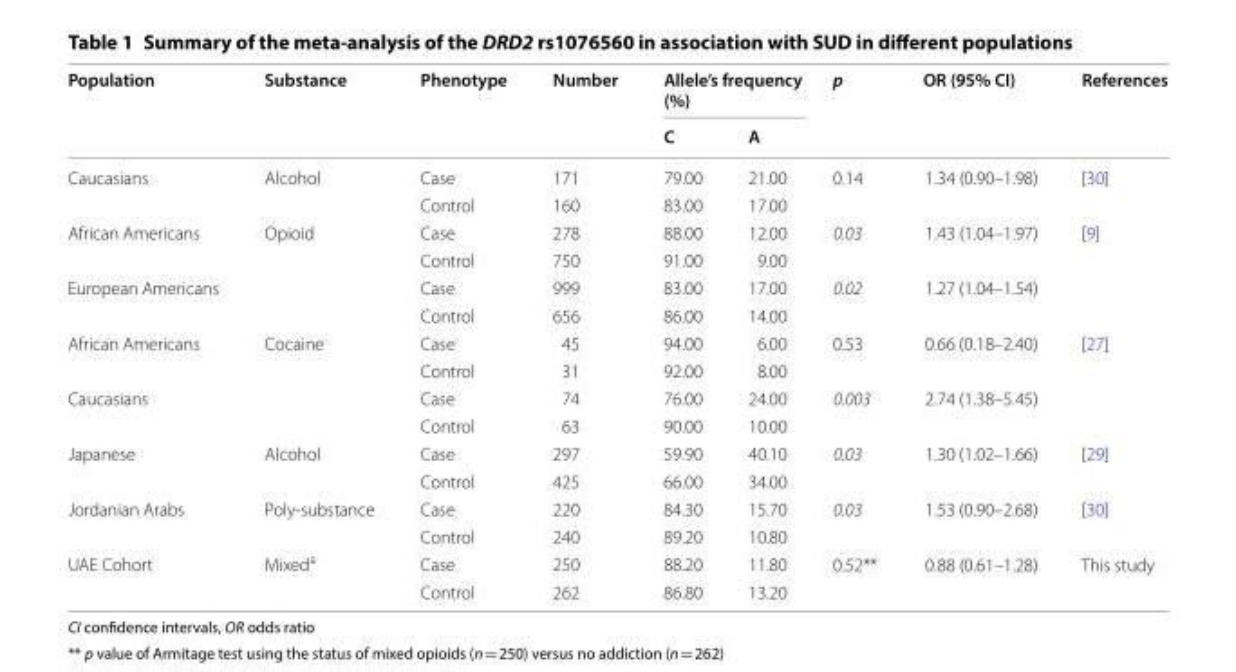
<table><thead><tr><td rowspan="2">Population</td><td rowspan="2">Substance</td><td rowspan="2">Phenotype</td><td rowspan="2">Number</td><td colspan="2">Allele’s frequency (%)</td><td rowspan="2">p</td><td rowspan="2">OR (95% CI)</td><td rowspan="2">References</td></tr><tr><td>C</td><td>A</td></tr></thead><tbody><tr><td rowspan="2">Caucasians</td><td rowspan="2">Alcohol</td><td>Case</td><td>171</td><td>79.00</td><td>21.00</td><td rowspan="2">0.14</td><td rowspan="2">1.34 (0.90–1.98)</td><td rowspan="2">[30]</td></tr><tr><td>Control</td><td>160</td><td>83.00</td><td>17.00</td></tr><tr><td rowspan="2">African Americans</td><td rowspan="4">Opioid</td><td>Case</td><td>278</td><td>88.00</td><td>12.00</td><td rowspan="2">0.03</td><td rowspan="2">1.43 (1.04–1.97)</td><td rowspan="2">[9]</td></tr><tr><td>Control</td><td>750</td><td>91.00</td><td>9.00</td></tr><tr><td rowspan="2">European Americans</td><td>Case</td><td>999</td><td>83.00</td><td>17.00</td><td rowspan="2">0.02</td><td rowspan="2">1.27 (1.04–1.54)</td><td rowspan="2"></td></tr><tr><td>Control</td><td>656</td><td>86.00</td><td>14.00</td></tr><tr><td rowspan="2">African Americans</td><td rowspan="4">Cocaine</td><td>Case</td><td>45</td><td>94.00</td><td>6.00</td><td rowspan="2">0.53</td><td rowspan="2">0.66 (0.18–2.40)</td><td rowspan="4">[27]</td></tr><tr><td>Control</td><td>31</td><td>92.00</td><td>8.00</td></tr><tr><td rowspan="2">Caucasians</td><td>Case</td><td>74</td><td>76.00</td><td>24.00</td><td rowspan="2">0.003</td><td rowspan="2">2.74 (1.38–5.45)</td></tr><tr><td>Control</td><td>63</td><td>90.00</td><td>10.00</td></tr><tr><td rowspan="2">Japanese</td><td rowspan="2">Alcohol</td><td>Case</td><td>297</td><td>59.90</td><td>40.10</td><td rowspan="2">0.03</td><td rowspan="2">1.30 (1.02–1.66)</td><td rowspan="2">[29]</td></tr><tr><td>Control</td><td>425</td><td>66.00</td><td>34.00</td></tr><tr><td rowspan="2">Jordanian Arabs</td><td rowspan="2">Poly-substance</td><td>Case</td><td>220</td><td>84.30</td><td>15.70</td><td rowspan="2">0.03</td><td rowspan="2">1.53 (0.90–2.68)</td><td rowspan="2">[30]</td></tr><tr><td>Control</td><td>240</td><td>89.20</td><td>10.80</td></tr><tr><td rowspan="2">UAE Cohort</td><td rowspan="2">Mixed<sup>a</sup></td><td>Case</td><td>250</td><td>88.20</td><td>11.80</td><td rowspan="2">0.52**</td><td rowspan="2">0.88 (0.61–1.28)</td><td rowspan="2">This study</td></tr><tr><td>Control</td><td>262</td><td>86.80</td><td>13.20</td></tr></tbody></table>